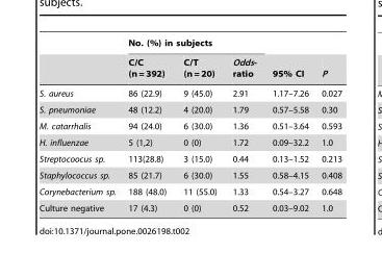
<table><thead><tr><td rowspan="2"></td><td colspan="3">No. (%) in subjects</td><td rowspan="2">95% CI</td><td rowspan="2">P</td></tr><tr><td>C/C (n = 392)</td><td>C/T (n = 20)</td><td>Odds- ratio</td></tr></thead><tbody><tr><td>S. aureus</td><td>86 (22.9)</td><td>9 (45.0)</td><td>2.91</td><td>1.17–7.26</td><td>0.027</td></tr><tr><td>S. pneumoniae</td><td>48 (12.2)</td><td>4 (20.0)</td><td>1.79</td><td>0.57–5.58</td><td>0.30</td></tr><tr><td>M. catarrhalis</td><td>94 (24.0)</td><td>6 (30.0)</td><td>1.36</td><td>0.51–3.64</td><td>0.593</td></tr><tr><td>H. influenzae</td><td>5 (1,2)</td><td>0 (0)</td><td>1.72</td><td>0.09–32.2</td><td>1.0</td></tr><tr><td>Streptocoocus sp.</td><td>113(28.8)</td><td>3 (15.0)</td><td>0.44</td><td>0.13–1.52</td><td>0.213</td></tr><tr><td>Staphylococcus sp.</td><td>85 (21.7)</td><td>6 (30.0)</td><td>1.55</td><td>0.58–4.15</td><td>0.408</td></tr><tr><td>Corynebacterium sp.</td><td>188 (48.0)</td><td>11 (55.0)</td><td>1.33</td><td>0.54–3.27</td><td>0.648</td></tr><tr><td>Culture negative</td><td>17 (4.3)</td><td>0 (0)</td><td>0.52</td><td>0.03–9.02</td><td>1.0</td></tr></tbody></table>